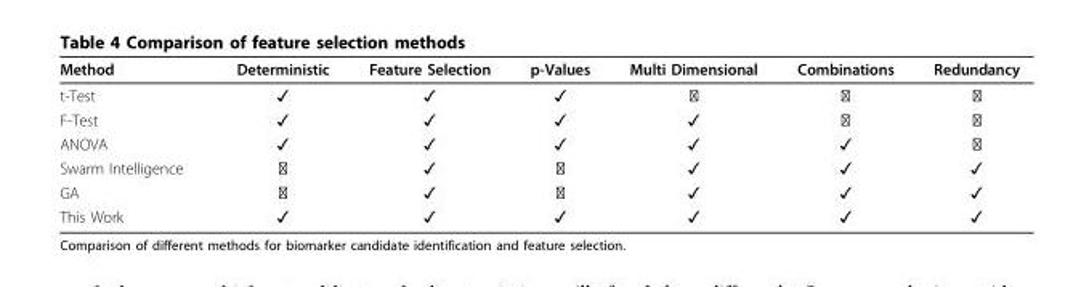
<table><thead><tr><td>Method</td><td>Deterministic</td><td>Feature Selection</td><td>p-Values</td><td>Multi Dimensional</td><td>Combinations</td><td>Redundancy</td></tr></thead><tbody><tr><td>t-Test</td><td>✓</td><td>✓</td><td>✓</td><td>✕</td><td>✕</td><td>✕</td></tr><tr><td>F-Test</td><td>✓</td><td>✓</td><td>✓</td><td>✓</td><td>✕</td><td>✕</td></tr><tr><td>ANOVA</td><td>✓</td><td>✓</td><td>✓</td><td>✓</td><td>✓</td><td>✕</td></tr><tr><td>Swarm Intelligence</td><td>✕</td><td>✓</td><td>✕</td><td>✓</td><td>✓</td><td>✓</td></tr><tr><td>GA</td><td>✕</td><td>✓</td><td>✕</td><td>✓</td><td>✓</td><td>✓</td></tr><tr><td>This Work</td><td>✓</td><td>✓</td><td>✓</td><td>✓</td><td>✓</td><td>✓</td></tr></tbody></table>